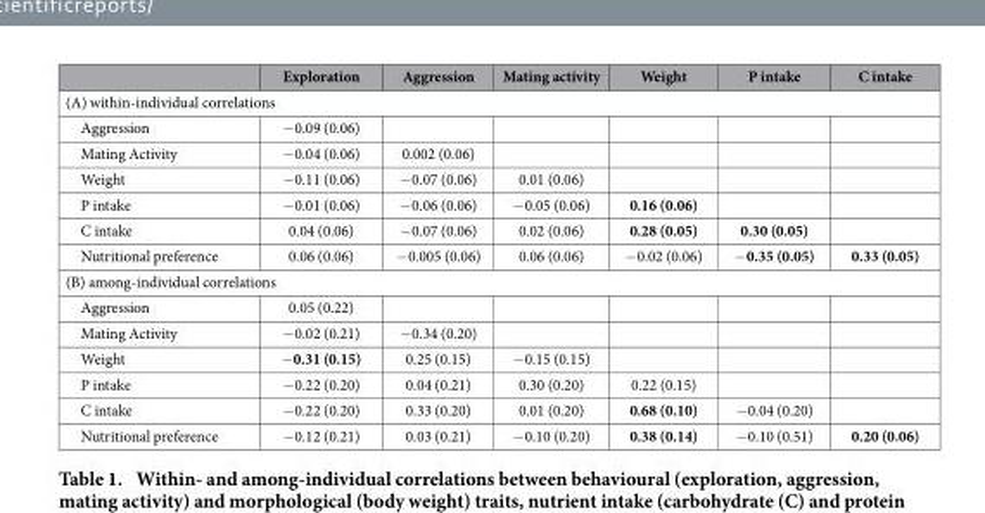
<table><thead><tr><td></td><td>Exploration</td><td>Aggression</td><td>Mating activity</td><td>Weight</td><td>P intake</td><td>C intake</td></tr></thead><tbody><tr><td colspan="7">(A) within-individual correlations</td></tr><tr><td>Aggression</td><td>− 0.09 (0.06)</td><td></td><td></td><td></td><td></td><td></td></tr><tr><td>Mating Activity</td><td>− 0.04 (0.06)</td><td>0.002 (0.06)</td><td></td><td></td><td></td><td></td></tr><tr><td>Weight</td><td>− 0.11 (0.06)</td><td>− 0.07 (0.06)</td><td>0.01 (0.06)</td><td></td><td></td><td></td></tr><tr><td>P intake</td><td>− 0.01 (0.06)</td><td>− 0.06 (0.06)</td><td>− 0.05 (0.06)</td><td>0.16 (0.06)</td><td></td><td></td></tr><tr><td>C intake</td><td>0.04 (0.06)</td><td>− 0.07 (0.06)</td><td>0.02 (0.06)</td><td>0.28 (0.05)</td><td>0.30 (0.05)</td><td></td></tr><tr><td>Nutritional preference</td><td>0.06 (0.06)</td><td>− 0.005 (0.06)</td><td>0.06 (0.06)</td><td>− 0.02 (0.06)</td><td>− 0.35 (0.05)</td><td>0.33 (0.05)</td></tr><tr><td colspan="7">(B) among-individual correlations</td></tr><tr><td>Aggression</td><td>0.05 (0.22)</td><td></td><td></td><td></td><td></td><td></td></tr><tr><td>Mating Activity</td><td>− 0.02 (0.21)</td><td>− 0.34 (0.20)</td><td></td><td></td><td></td><td></td></tr><tr><td>Weight</td><td>− 0.31 (0.15)</td><td>0.25 (0.15)</td><td>− 0.15 (0.15)</td><td></td><td></td><td></td></tr><tr><td>P intake</td><td>− 0.22 (0.20)</td><td>0.04 (0.21)</td><td>0.30 (0.20)</td><td>0.22 (0.15)</td><td></td><td></td></tr><tr><td>C intake</td><td>− 0.22 (0.20)</td><td>0.33 (0.20)</td><td>0.01 (0.20)</td><td>0.68 (0.10)</td><td>− 0.04 (0.20)</td><td></td></tr><tr><td>Nutritional preference</td><td>− 0.12 (0.21)</td><td>0.03 (0.21)</td><td>− 0.10 (0.20)</td><td>0.38 (0.14)</td><td>− 0.10 (0.51)</td><td>0.20 (0.06)</td></tr></tbody></table>